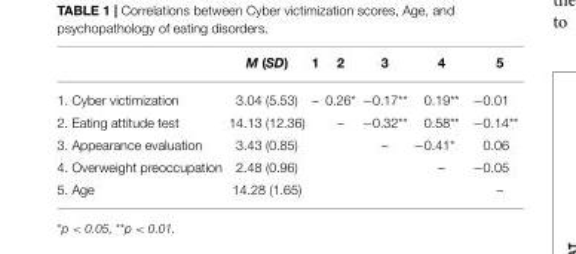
<table><thead><tr><td></td><td>M (SD)</td><td>1</td><td>2</td><td>3</td><td>4</td><td>5</td></tr></thead><tbody><tr><td>1. Cyber victimization</td><td>3.04 (5.53)</td><td>–</td><td>0.26*</td><td>−0.17**</td><td>0.19**</td><td>−0.01</td></tr><tr><td>2. Eating attitude test</td><td>14.13 (12.36)</td><td></td><td>–</td><td>−0.32**</td><td>0.58**</td><td>−0.14**</td></tr><tr><td>3. Appearance evaluation</td><td>3.43 (0.85)</td><td></td><td></td><td>–</td><td>−0.41*</td><td>0.06</td></tr><tr><td>4. Overweight preoccupation</td><td>2.48 (0.96)</td><td></td><td></td><td></td><td>–</td><td>−0.05</td></tr><tr><td>5. Age</td><td>14.28 (1.65)</td><td></td><td></td><td></td><td></td><td>–</td></tr></tbody></table>